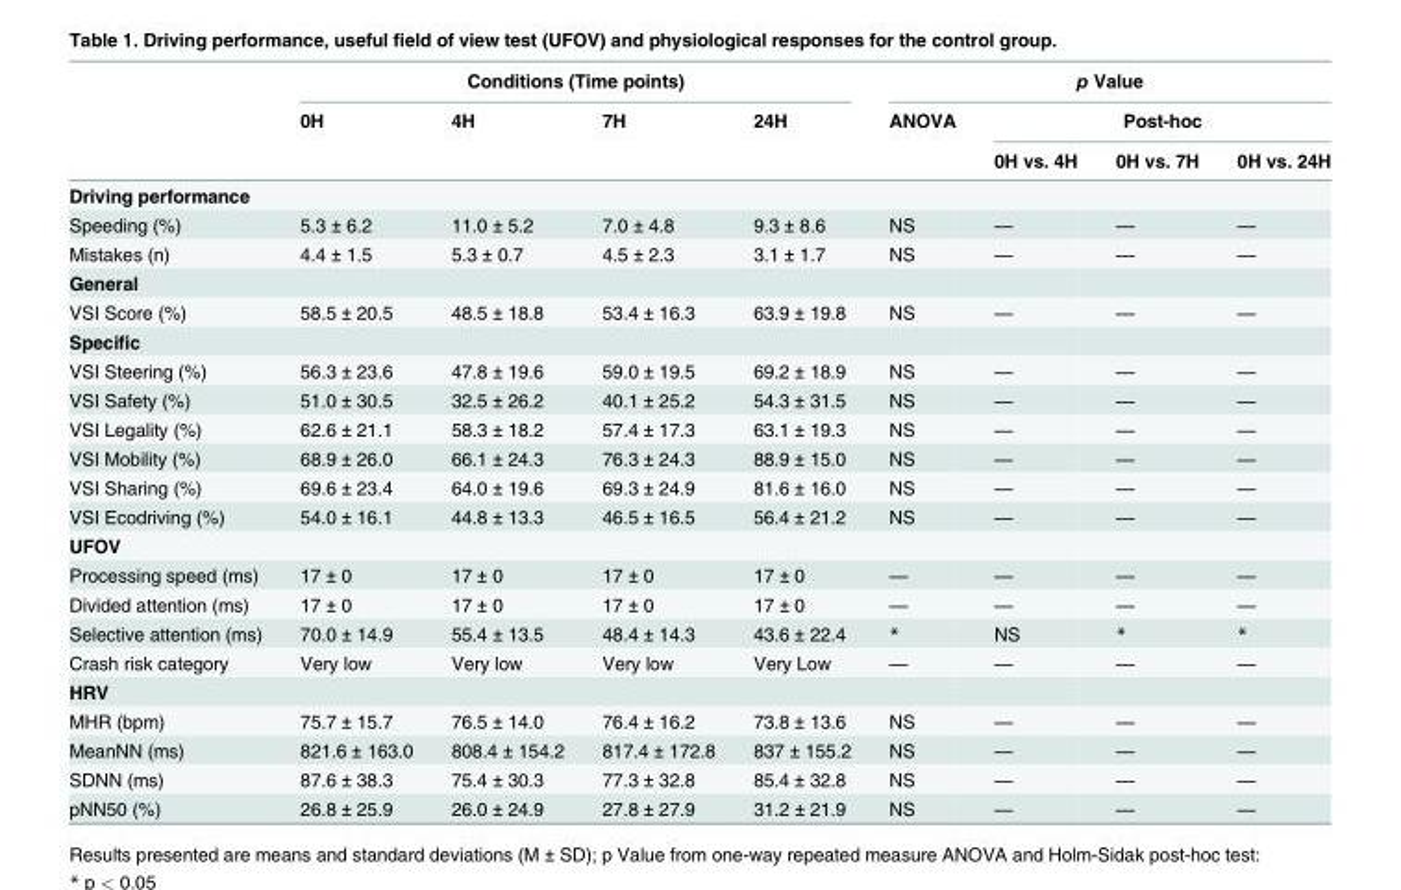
<table><thead><tr><td rowspan="3"></td><td colspan="4">Conditions (Time points)</td><td colspan="4">p Value</td></tr><tr><td rowspan="2">0H</td><td rowspan="2">4H</td><td rowspan="2">7H</td><td rowspan="2">24H</td><td rowspan="2">ANOVA</td><td colspan="3">Post-hoc</td></tr><tr><td>0H vs. 4H</td><td>0H vs. 7H</td><td>0H vs. 24H</td></tr></thead><tbody><tr><td colspan="9">Driving performance</td></tr><tr><td>Speeding (%)</td><td>5.3 ± 6.2</td><td>11.0 ± 5.2</td><td>7.0 ± 4.8</td><td>9.3 ± 8.6</td><td>NS</td><td>—</td><td>—</td><td>—</td></tr><tr><td>Mistakes (n)</td><td>4.4 ± 1.5</td><td>5.3 ± 0.7</td><td>4.5 ± 2.3</td><td>3.1 ± 1.7</td><td>NS</td><td>—</td><td>—</td><td>—</td></tr><tr><td colspan="9">General</td></tr><tr><td>VSI Score (%)</td><td>58.5 ± 20.5</td><td>48.5 ± 18.8</td><td>53.4 ± 16.3</td><td>63.9 ± 19.8</td><td>NS</td><td>—</td><td>—</td><td>—</td></tr><tr><td colspan="9">Specific</td></tr><tr><td>VSI Steering (%)</td><td>56.3 ± 23.6</td><td>47.8 ± 19.6</td><td>59.0 ± 19.5</td><td>69.2 ± 18.9</td><td>NS</td><td>—</td><td>—</td><td>—</td></tr><tr><td>VSI Safety (%)</td><td>51.0 ± 30.5</td><td>32.5 ± 26.2</td><td>40.1 ± 25.2</td><td>54.3 ± 31.5</td><td>NS</td><td>—</td><td>—</td><td>—</td></tr><tr><td>VSI Legality (%)</td><td>62.6 ± 21.1</td><td>58.3 ± 18.2</td><td>57.4 ± 17.3</td><td>63.1 ± 19.3</td><td>NS</td><td>—</td><td>—</td><td>—</td></tr><tr><td>VSI Mobility (%)</td><td>68.9 ± 26.0</td><td>66.1 ± 24.3</td><td>76.3 ± 24.3</td><td>88.9 ± 15.0</td><td>NS</td><td>—</td><td>—</td><td>—</td></tr><tr><td>VSI Sharing (%)</td><td>69.6 ± 23.4</td><td>64.0 ± 19.6</td><td>69.3 ± 24.9</td><td>81.6 ± 16.0</td><td>NS</td><td>—</td><td>—</td><td>—</td></tr><tr><td>VSI Ecodriving (%)</td><td>54.0 ± 16.1</td><td>44.8 ± 13.3</td><td>46.5 ± 16.5</td><td>56.4 ± 21.2</td><td>NS</td><td>—</td><td>—</td><td>—</td></tr><tr><td colspan="9">UFOV</td></tr><tr><td>Processing speed (ms)</td><td>17 ± 0</td><td>17 ± 0</td><td>17 ± 0</td><td>17 ± 0</td><td>—</td><td>—</td><td>—</td><td>—</td></tr><tr><td>Divided attention (ms)</td><td>17 ± 0</td><td>17 ± 0</td><td>17 ± 0</td><td>17 ± 0</td><td>—</td><td>—</td><td>—</td><td>—</td></tr><tr><td>Selective attention (ms)</td><td>70.0 ± 14.9</td><td>55.4 ± 13.5</td><td>48.4 ± 14.3</td><td>43.6 ± 22.4</td><td>*</td><td>NS</td><td>*</td><td>*</td></tr><tr><td>Crash risk category</td><td>Very low</td><td>Very low</td><td>Very low</td><td>Very Low</td><td>—</td><td>—</td><td>—</td><td>—</td></tr><tr><td colspan="9">HRV</td></tr><tr><td>MHR (bpm)</td><td>75.7 ± 15.7</td><td>76.5 ± 14.0</td><td>76.4 ± 16.2</td><td>73.8 ± 13.6</td><td>NS</td><td>—</td><td>—</td><td>—</td></tr><tr><td>MeanNN (ms)</td><td>821.6 ± 163.0</td><td>808.4 ± 154.2</td><td>817.4 ± 172.8</td><td>837 ± 155.2</td><td>NS</td><td>—</td><td>—</td><td>—</td></tr><tr><td>SDNN (ms)</td><td>87.6 ± 38.3</td><td>75.4 ± 30.3</td><td>77.3 ± 32.8</td><td>85.4 ± 32.8</td><td>NS</td><td>—</td><td>—</td><td>—</td></tr><tr><td>pNN50 (%)</td><td>26.8 ± 25.9</td><td>26.0 ± 24.9</td><td>27.8 ± 27.9</td><td>31.2 ± 21.9</td><td>NS</td><td>—</td><td>—</td><td>—</td></tr></tbody></table>